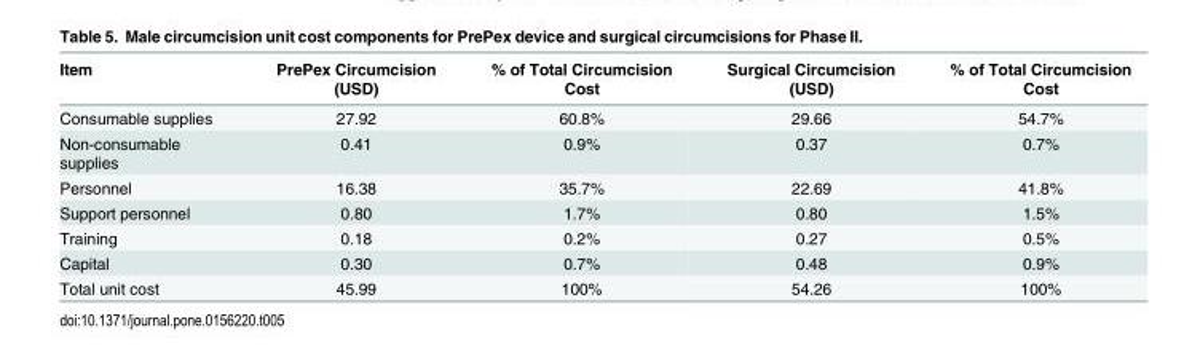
<table><thead><tr><td>Item</td><td>PrePex Circumcision (USD)</td><td>% of Total Circumcision Cost</td><td>Surgical Circumcision (USD)</td><td>% of Total Circumcision Cost</td></tr></thead><tbody><tr><td>Consumable supplies</td><td>27.92</td><td>60.8%</td><td>29.66</td><td>54.7%</td></tr><tr><td>Non-consumable supplies</td><td>0.41</td><td>0.9%</td><td>0.37</td><td>0.7%</td></tr><tr><td>Personnel</td><td>16.38</td><td>35.7%</td><td>22.69</td><td>41.8%</td></tr><tr><td>Support personnel</td><td>0.80</td><td>1.7%</td><td>0.80</td><td>1.5%</td></tr><tr><td>Training</td><td>0.18</td><td>0.2%</td><td>0.27</td><td>0.5%</td></tr><tr><td>Capital</td><td>0.30</td><td>0.7%</td><td>0.48</td><td>0.9%</td></tr><tr><td>Total unit cost</td><td>45.99</td><td>100%</td><td>54.26</td><td>100%</td></tr></tbody></table>